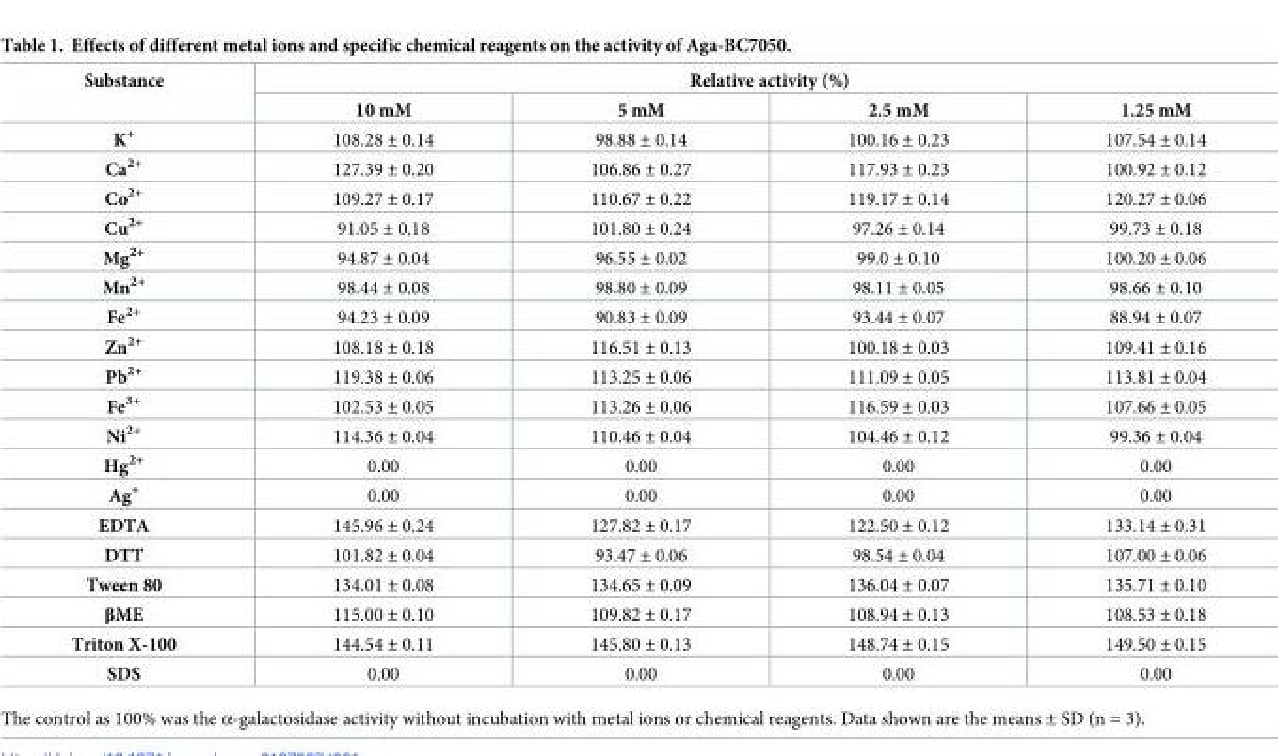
<table><thead><tr><td rowspan="2">Substance</td><td colspan="4">Relative activity (%)</td></tr><tr><td>10 mM</td><td>5 mM</td><td>2.5 mM</td><td>1.25 mM</td></tr></thead><tbody><tr><td>K<sup>+</sup></td><td>108.28 ± 0.14</td><td>98.88 ± 0.14</td><td>100.16 ± 0.23</td><td>107.54 ± 0.14</td></tr><tr><td>Ca<sup>2+</sup></td><td>127.39 ± 0.20</td><td>106.86 ± 0.27</td><td>117.93 ± 0.23</td><td>100.92 ± 0.12</td></tr><tr><td>Co<sup>2+</sup></td><td>109.27 ± 0.17</td><td>110.67 ± 0.22</td><td>119.17 ± 0.14</td><td>120.27 ± 0.06</td></tr><tr><td>Cu<sup>2+</sup></td><td>91.05 ± 0.18</td><td>101.80 ± 0.24</td><td>97.26 ± 0.14</td><td>99.73 ± 0.18</td></tr><tr><td>Mg<sup>2+</sup></td><td>94.87 ± 0.04</td><td>96.55 ± 0.02</td><td>99.0 ± 0.10</td><td>100.20 ± 0.06</td></tr><tr><td>Mn<sup>2+</sup></td><td>98.44 ± 0.08</td><td>98.80 ± 0.09</td><td>98.11 ± 0.05</td><td>98.66 ± 0.10</td></tr><tr><td>Fe<sup>2+</sup></td><td>94.23 ± 0.09</td><td>90.83 ± 0.09</td><td>93.44 ± 0.07</td><td>88.94 ± 0.07</td></tr><tr><td>Zn<sup>2+</sup></td><td>108.18 ± 0.18</td><td>116.51 ± 0.13</td><td>100.18 ± 0.03</td><td>109.41 ± 0.16</td></tr><tr><td>Pb<sup>2+</sup></td><td>119.38 ± 0.06</td><td>113.25 ± 0.06</td><td>111.09 ± 0.05</td><td>113.81 ± 0.04</td></tr><tr><td>Fe<sup>3+</sup></td><td>102.53 ± 0.05</td><td>113.26 ± 0.06</td><td>116.59 ± 0.03</td><td>107.66 ± 0.05</td></tr><tr><td>Ni<sup>2+</sup></td><td>114.36 ± 0.04</td><td>110.46 ± 0.04</td><td>104.46 ± 0.12</td><td>99.36 ± 0.04</td></tr><tr><td>Hg<sup>2+</sup></td><td>0.00</td><td>0.00</td><td>0.00</td><td>0.00</td></tr><tr><td>Ag<sup>+</sup></td><td>0.00</td><td>0.00</td><td>0.00</td><td>0.00</td></tr><tr><td>EDTA</td><td>145.96 ± 0.24</td><td>127.82 ± 0.17</td><td>122.50 ± 0.12</td><td>133.14 ± 0.31</td></tr><tr><td>DTT</td><td>101.82 ± 0.04</td><td>93.47 ± 0.06</td><td>98.54 ± 0.04</td><td>107.00 ± 0.06</td></tr><tr><td>Tween 80</td><td>134.01 ± 0.08</td><td>134.65 ± 0.09</td><td>136.04 ± 0.07</td><td>135.71 ± 0.10</td></tr><tr><td>βME</td><td>115.00 ± 0.10</td><td>109.82 ± 0.17</td><td>108.94 ± 0.13</td><td>108.53 ± 0.18</td></tr><tr><td>Triton X-100</td><td>144.54 ± 0.11</td><td>145.80 ± 0.13</td><td>148.74 ± 0.15</td><td>149.50 ± 0.15</td></tr><tr><td>SDS</td><td>0.00</td><td>0.00</td><td>0.00</td><td>0.00</td></tr></tbody></table>